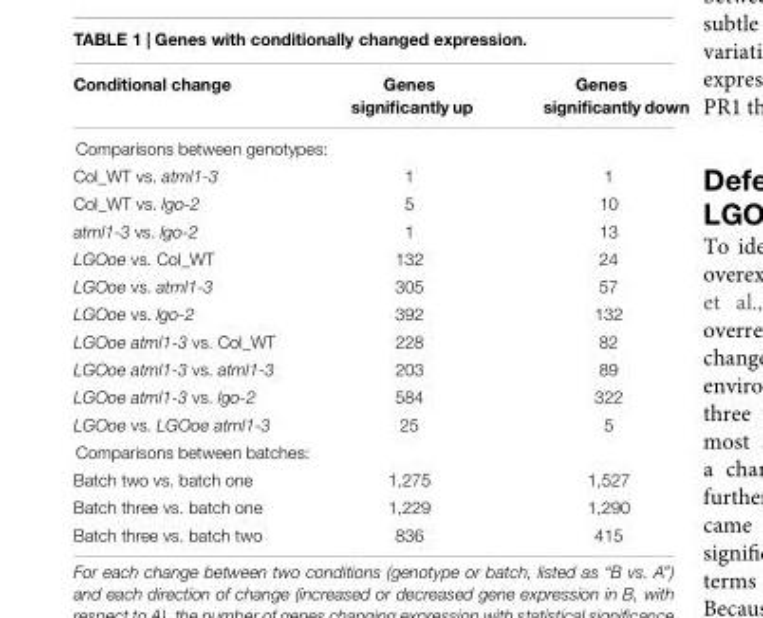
<table><thead><tr><td>Conditional change</td><td>Genes significantly up</td><td>Genes significantly down</td></tr></thead><tbody><tr><td colspan="3">Comparisons between genotypes:</td></tr><tr><td>Col_WT vs. atml1-3</td><td>1</td><td>1</td></tr><tr><td>Col_WT vs. lgo-2</td><td>5</td><td>10</td></tr><tr><td>atml1-3 vs. lgo-2</td><td>1</td><td>13</td></tr><tr><td>LGOoe vs. Col_WT</td><td>132</td><td>24</td></tr><tr><td>LGOoe vs. atml1-3</td><td>305</td><td>57</td></tr><tr><td>LGOoe vs. lgo-2</td><td>392</td><td>132</td></tr><tr><td>LGOoe atml1-3 vs. Col_WT</td><td>228</td><td>82</td></tr><tr><td>LGOoe atml1-3 vs. atml1-3</td><td>203</td><td>89</td></tr><tr><td>LGOoe atml1-3 vs. lgo-2</td><td>584</td><td>322</td></tr><tr><td>LGOoe vs. LGOoe atml1-3</td><td>25</td><td>5</td></tr><tr><td colspan="3">Comparisons between batches:</td></tr><tr><td>Batch two vs. batch one</td><td>1,275</td><td>1,527</td></tr><tr><td>Batch three vs. batch one</td><td>1,229</td><td>1,290</td></tr><tr><td>Batch three vs. batch two</td><td>836</td><td>415</td></tr></tbody></table>